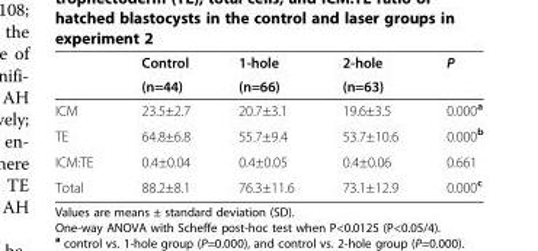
<table><thead><tr><td rowspan="2"></td><td rowspan="2">Control (n=44)</td><td rowspan="2">1-hole (n=66)</td><td rowspan="2">2-hole (n=63)</td><td rowspan="2">P</td></tr><tr></tr></thead><tbody><tr><td>ICM</td><td>23.5±2.7</td><td>20.7±3.1</td><td>19.6±3.5</td><td>0.000<sup>a</sup></td></tr><tr><td>TE</td><td>64.8±6.8</td><td>55.7±9.4</td><td>53.7±10.6</td><td>0.000<sup>b</sup></td></tr><tr><td>ICM:TE</td><td>0.4±0.04</td><td>0.4±0.05</td><td>0.4±0.06</td><td>0.661</td></tr><tr><td>Total</td><td>88.2±8.1</td><td>76.3±11.6</td><td>73.1±12.9</td><td>0.000<sup>c</sup></td></tr></tbody></table>